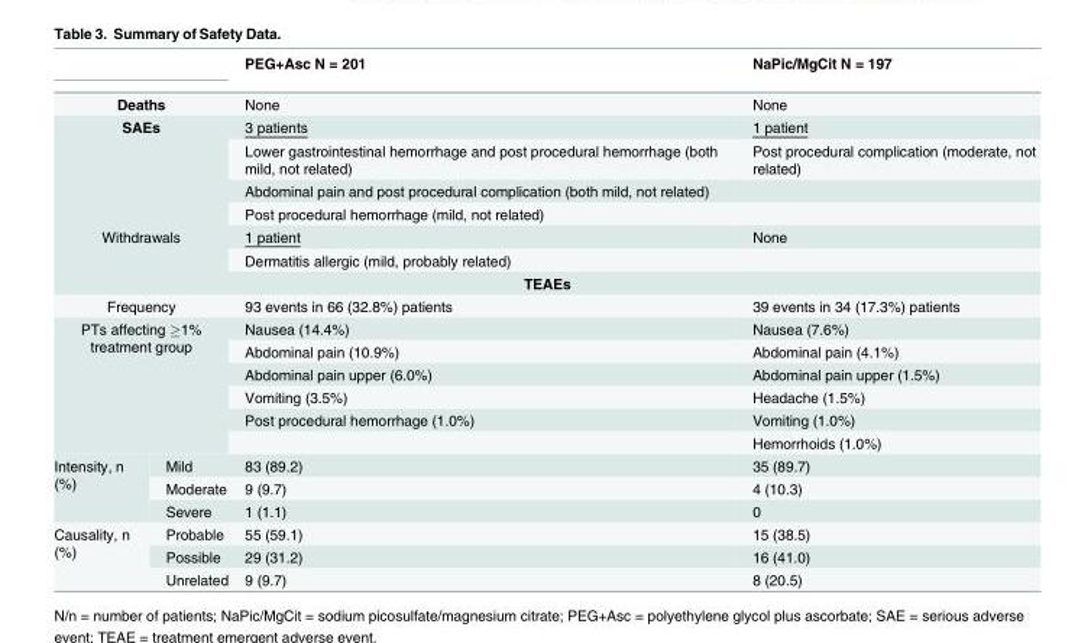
<table><thead><tr><td></td><td></td><td>PEG+Asc N = 201</td><td>NaPic/MgCit N = 197</td></tr></thead><tbody><tr><td colspan="2">Deaths</td><td>None</td><td>None</td></tr><tr><td rowspan="4" colspan="2">SAEs</td><td>3 patients</td><td>1 patient</td></tr><tr><td>Lower gastrointestinal hemorrhage and post procedural hemorrhage (both mild, not related)</td><td>Post procedural complication (moderate, not related)</td></tr><tr><td>Abdominal pain and post procedural complication (both mild, not related)</td><td></td></tr><tr><td>Post procedural hemorrhage (mild, not related)</td><td></td></tr><tr><td rowspan="2" colspan="2">Withdrawals</td><td>1 patient</td><td>None</td></tr><tr><td>Dermatitis allergic (mild, probably related)</td><td></td></tr><tr><td colspan="4">TEAEs</td></tr><tr><td colspan="2">Frequency</td><td>93 events in 66 (32.8%) patients</td><td>39 events in 34 (17.3%) patients</td></tr><tr><td rowspan="6" colspan="2">PTs affecting ≥1% treatment group</td><td>Nausea (14.4%)</td><td>Nausea (7.6%)</td></tr><tr><td>Abdominal pain (10.9%)</td><td>Abdominal pain (4.1%)</td></tr><tr><td>Abdominal pain upper (6.0%)</td><td>Abdominal pain upper (1.5%)</td></tr><tr><td>Vomiting (3.5%)</td><td>Headache (1.5%)</td></tr><tr><td>Post procedural hemorrhage (1.0%)</td><td>Vomiting (1.0%)</td></tr><tr><td></td><td>Hemorrhoids (1.0%)</td></tr><tr><td rowspan="3">Intensity, n (%)</td><td>Mild</td><td>83 (89.2)</td><td>35 (89.7)</td></tr><tr><td>Moderate</td><td>9 (9.7)</td><td>4 (10.3)</td></tr><tr><td>Severe</td><td>1 (1.1)</td><td>0</td></tr><tr><td rowspan="3">Causality, n (%)</td><td>Probable</td><td>55 (59.1)</td><td>15 (38.5)</td></tr><tr><td>Possible</td><td>29 (31.2)</td><td>16 (41.0)</td></tr><tr><td>Unrelated</td><td>9 (9.7)</td><td>8 (20.5)</td></tr></tbody></table>